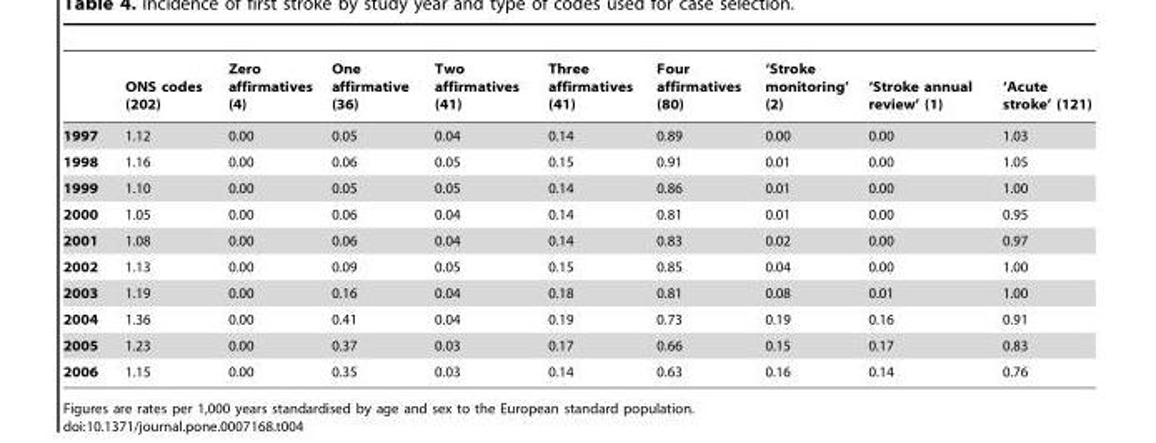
<table><thead><tr><td></td><td>ONS codes (202)</td><td>Zero affirmatives (4)</td><td>One affirmative (36)</td><td>Two affirmatives (41)</td><td>Three affirmatives (41)</td><td>Four affirmatives (80)</td><td>‘Stroke monitoring’ (2)</td><td>‘Stroke annual review’ (1)</td><td>‘Acute stroke’ (121)</td></tr></thead><tbody><tr><td>1997</td><td>1.12</td><td>0.00</td><td>0.05</td><td>0.04</td><td>0.14</td><td>0.89</td><td>0.00</td><td>0.00</td><td>1.03</td></tr><tr><td>1998</td><td>1.16</td><td>0.00</td><td>0.06</td><td>0.05</td><td>0.15</td><td>0.91</td><td>0.01</td><td>0.00</td><td>1.05</td></tr><tr><td>1999</td><td>1.10</td><td>0.00</td><td>0.05</td><td>0.05</td><td>0.14</td><td>0.86</td><td>0.01</td><td>0.00</td><td>1.00</td></tr><tr><td>2000</td><td>1.05</td><td>0.00</td><td>0.06</td><td>0.04</td><td>0.14</td><td>0.81</td><td>0.01</td><td>0.00</td><td>0.95</td></tr><tr><td>2001</td><td>1.08</td><td>0.00</td><td>0.06</td><td>0.04</td><td>0.14</td><td>0.83</td><td>0.02</td><td>0.00</td><td>0.97</td></tr><tr><td>2002</td><td>1.13</td><td>0.00</td><td>0.09</td><td>0.05</td><td>0.15</td><td>0.85</td><td>0.04</td><td>0.00</td><td>1.00</td></tr><tr><td>2003</td><td>1.19</td><td>0.00</td><td>0.16</td><td>0.04</td><td>0.18</td><td>0.81</td><td>0.08</td><td>0.01</td><td>1.00</td></tr><tr><td>2004</td><td>1.36</td><td>0.00</td><td>0.41</td><td>0.04</td><td>0.19</td><td>0.73</td><td>0.19</td><td>0.16</td><td>0.91</td></tr><tr><td>2005</td><td>1.23</td><td>0.00</td><td>0.37</td><td>0.03</td><td>0.17</td><td>0.66</td><td>0.15</td><td>0.17</td><td>0.83</td></tr><tr><td>2006</td><td>1.15</td><td>0.00</td><td>0.35</td><td>0.03</td><td>0.14</td><td>0.63</td><td>0.16</td><td>0.14</td><td>0.76</td></tr></tbody></table>